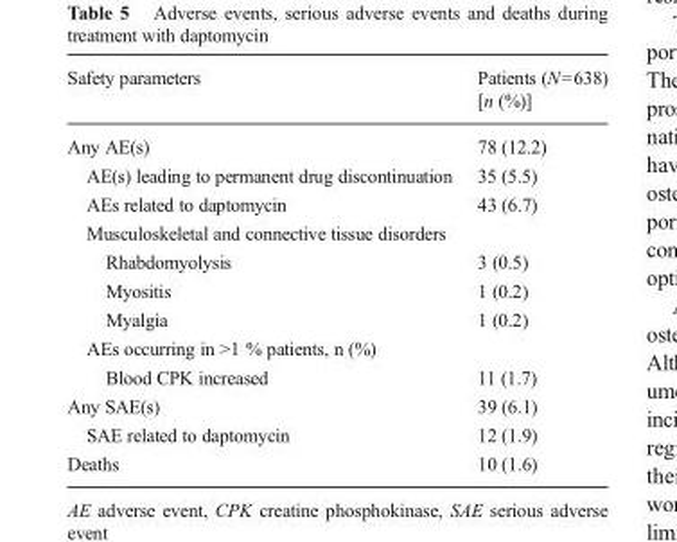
<table><thead><tr><td>Safety parameters</td><td>Patients (N=638) [n (%)]</td></tr></thead><tbody><tr><td>Any AE(s)</td><td>78 (12.2)</td></tr><tr><td>AE(s) leading to permanent drug discontinuation</td><td>35 (5.5)</td></tr><tr><td>AEs related to daptomycin</td><td>43 (6.7)</td></tr><tr><td colspan="2">Musculoskeletal and connective tissue disorders</td></tr><tr><td>Rhabdomyolysis</td><td>3 (0.5)</td></tr><tr><td>Myositis</td><td>1 (0.2)</td></tr><tr><td>Myalgia</td><td>1 (0.2)</td></tr><tr><td colspan="2">AEs occurring in &gt;1 % patients, n (%)</td></tr><tr><td>Blood CPK increased</td><td>11 (1.7)</td></tr><tr><td>Any SAE(s)</td><td>39 (6.1)</td></tr><tr><td>SAE related to daptomycin</td><td>12 (1.9)</td></tr><tr><td>Deaths</td><td>10 (1.6)</td></tr></tbody></table>